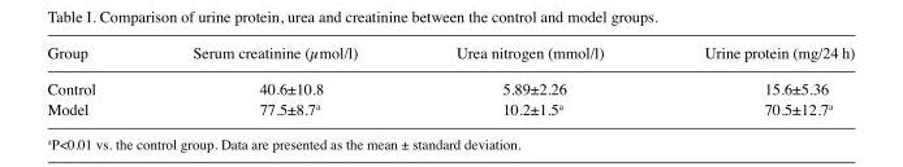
<table><thead><tr><td>Group</td><td>Serum creatinine (µmol/l)</td><td>Urea nitrogen (mmol/l)</td><td>Urine protein (mg/24 h)</td></tr></thead><tbody><tr><td>Control</td><td>40.6±10.8</td><td>5.89±2.26</td><td>15.6±5.36</td></tr><tr><td>Model</td><td>77.5±8.7<sup>a</sup></td><td>10.2±1.5<sup>a</sup></td><td>70.5±12.7<sup>a</sup></td></tr></tbody></table>